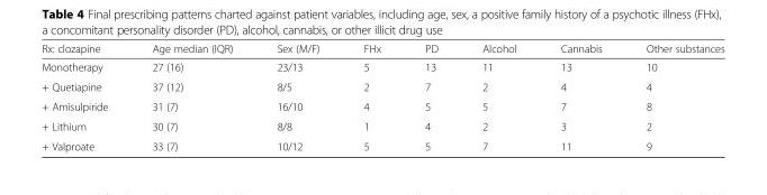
<table><thead><tr><td>Rx: clozapine</td><td>Age median (IQR)</td><td>Sex (M/F)</td><td>FHx</td><td>PD</td><td>Alcohol</td><td>Cannabis</td><td>Other substances</td></tr></thead><tbody><tr><td>Monotherapy</td><td>27 (16)</td><td>23/13</td><td>5</td><td>13</td><td>11</td><td>13</td><td>10</td></tr><tr><td>+ Quetiapine</td><td>37 (12)</td><td>8/5</td><td>2</td><td>7</td><td>2</td><td>4</td><td>4</td></tr><tr><td>+ Amisulpiride</td><td>31 (7)</td><td>16/10</td><td>4</td><td>5</td><td>5</td><td>7</td><td>8</td></tr><tr><td>+ Lithium</td><td>30 (7)</td><td>8/8</td><td>1</td><td>4</td><td>2</td><td>3</td><td>2</td></tr><tr><td>+ Valproate</td><td>33 (7)</td><td>10/12</td><td>5</td><td>5</td><td>7</td><td>11</td><td>9</td></tr></tbody></table>